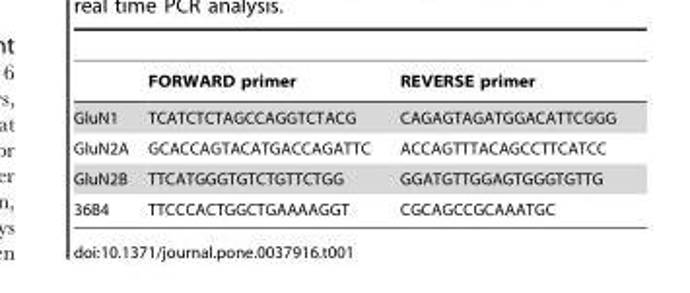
<table><thead><tr><td></td><td>FORWARD primer</td><td>REVERSE primer</td></tr></thead><tbody><tr><td>GluN1</td><td>TCATCTCTAGCCAGGTCTACG</td><td>CAGAGTAGATGGACATTCGGG</td></tr><tr><td>GluN2A</td><td>GCACCAGTACATGACCAGATTC</td><td>ACCAGTTTACAGCCTTCATCC</td></tr><tr><td>GluN2B</td><td>TTCATGGGTGTCTGTTCTGG</td><td>GGATGTTGGAGTGGGTGTTG</td></tr><tr><td>36B4</td><td>TTCCCACTGGCTGAAAAGGT</td><td>CGCAGCCGCAAATGC</td></tr></tbody></table>